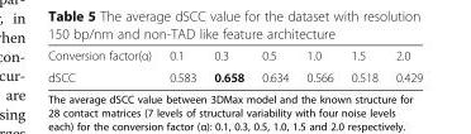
<table><tbody><tr><td>Conversion factor(α)</td><td>0.1</td><td>0.3</td><td>0.5</td><td>1.0</td><td>1.5</td><td>2.0</td></tr><tr><td>dSCC</td><td>0.583</td><td>0.658</td><td>0.634</td><td>0.566</td><td>0.518</td><td>0.429</td></tr></tbody></table>